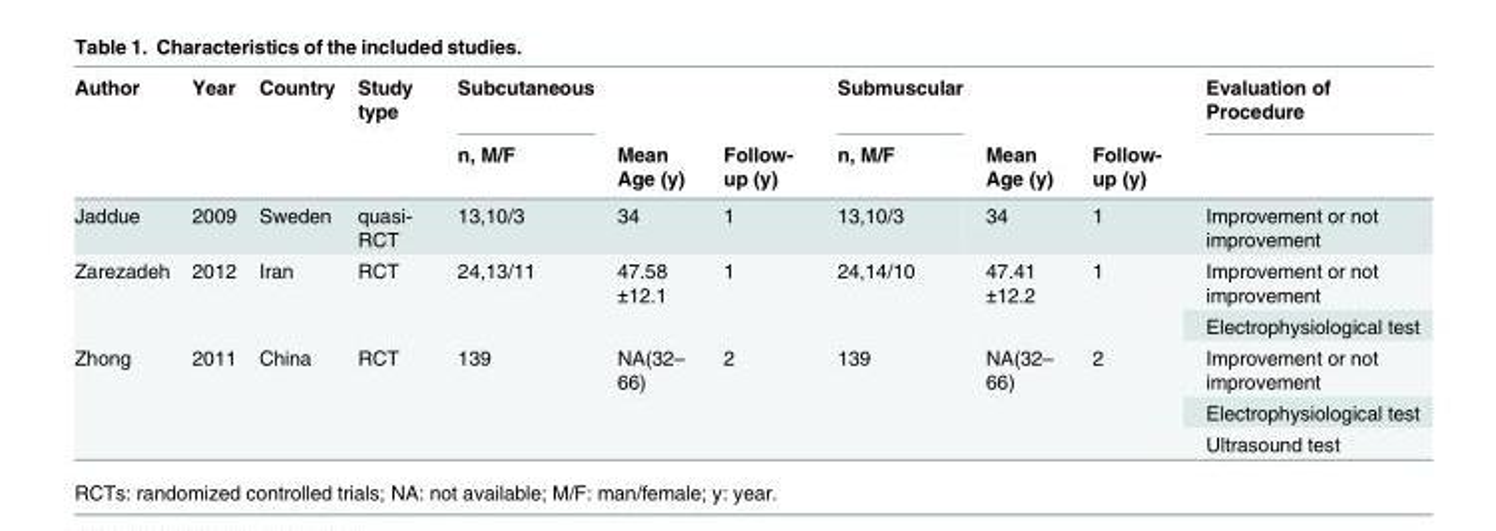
<table><thead><tr><td rowspan="2">Author</td><td rowspan="2">Year</td><td rowspan="2">Country</td><td rowspan="2">Study type</td><td rowspan="2">Subcutaneous n, M/F</td><td rowspan="2">Mean Age (y)</td><td rowspan="2">Follow- up (y)</td><td rowspan="2">Submuscular n, M/F</td><td rowspan="2">Mean Age (y)</td><td rowspan="2">Follow- up (y)</td><td rowspan="2">Evaluation of Procedure</td></tr><tr></tr></thead><tbody><tr><td>Jaddue</td><td>2009</td><td>Sweden</td><td>quasi- RCT</td><td>13,10/3</td><td>34</td><td>1</td><td>13,10/3</td><td>34</td><td>1</td><td>Improvement or not improvement</td></tr><tr><td rowspan="2">Zarezadeh</td><td rowspan="2">2012</td><td rowspan="2">Iran</td><td rowspan="2">RCT</td><td rowspan="2">24,13/11</td><td rowspan="2">47.58 ±12.1</td><td rowspan="2">1</td><td rowspan="2">24,14/10</td><td rowspan="2">47.41 ±12.2</td><td rowspan="2">1</td><td>Improvement or not improvement</td></tr><tr><td>Electrophysiological test</td></tr><tr><td rowspan="3">Zhong</td><td rowspan="3">2011</td><td rowspan="3">China</td><td rowspan="3">RCT</td><td rowspan="3">139</td><td rowspan="3">NA(32– 66)</td><td rowspan="3">2</td><td rowspan="3">139</td><td rowspan="3">NA(32– 66)</td><td rowspan="3">2</td><td>Improvement or not improvement</td></tr><tr><td>Electrophysiological test</td></tr><tr><td>Ultrasound test</td></tr></tbody></table>